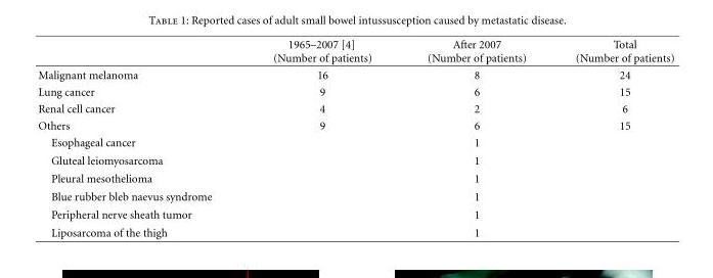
<table><thead><tr><td></td><td>1965–2007 [4] (Number of patients)</td><td>After 2007 (Number of patients)</td><td>Total (Number of patients)</td></tr></thead><tbody><tr><td>Malignant melanoma</td><td>16</td><td>8</td><td>24</td></tr><tr><td>Lung cancer</td><td>9</td><td>6</td><td>15</td></tr><tr><td>Renal cell cancer</td><td>4</td><td>2</td><td>6</td></tr><tr><td>Others</td><td>9</td><td>6</td><td>15</td></tr><tr><td>Esophageal cancer</td><td></td><td>1</td><td></td></tr><tr><td>Gluteal leiomyosarcoma</td><td></td><td>1</td><td></td></tr><tr><td>Pleural mesothelioma</td><td></td><td>1</td><td></td></tr><tr><td>Blue rubber bleb naevus syndrome</td><td></td><td>1</td><td></td></tr><tr><td>Peripheral nerve sheath tumor</td><td></td><td>1</td><td></td></tr><tr><td>Liposarcoma of the thigh</td><td></td><td>1</td><td></td></tr></tbody></table>